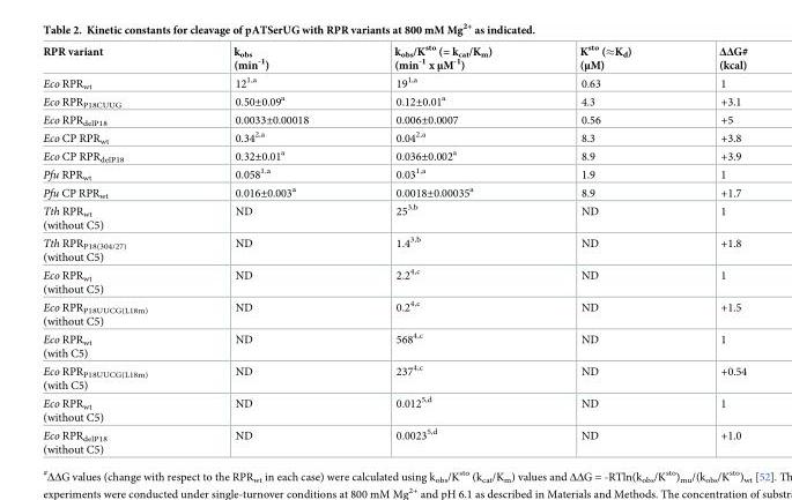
<table><thead><tr><td>RPR variant</td><td>k<sub>obs</sub> (min<sup>-1</sup>)</td><td>k<sub>obs</sub>/K<sup>sto</sup> (= k<sub>cat</sub>/K<sub>m</sub>) (min<sup>-1</sup> x μM<sup>-1</sup>)</td><td>K<sup>sto</sup> (≈K<sub>d</sub>) (μM)</td><td>ΔΔG# (kcal)</td></tr></thead><tbody><tr><td>Eco RPR<sub>wt</sub></td><td>12<sup>1,a</sup></td><td>19<sup>1,a</sup></td><td>0.63</td><td>1</td></tr><tr><td>Eco RPR<sub>P18CUUG</sub></td><td>0.50±0.09<sup>a</sup></td><td>0.12±0.01<sup>a</sup></td><td>4.3</td><td>+3.1</td></tr><tr><td>Eco RPR<sub>delP18</sub></td><td>0.0033±0.00018</td><td>0.006±0.0007</td><td>0.56</td><td>+5</td></tr><tr><td>Eco CP RPR<sub>wt</sub></td><td>0.34<sup>2,a</sup></td><td>0.04<sup>2,a</sup></td><td>8.3</td><td>+3.8</td></tr><tr><td>Eco CP RPR<sub>delP18</sub></td><td>0.32±0.01<sup>a</sup></td><td>0.036±0.002<sup>a</sup></td><td>8.9</td><td>+3.9</td></tr><tr><td>Pfu RPR<sub>wt</sub></td><td>0.058<sup>1,a</sup></td><td>0.03<sup>1,a</sup></td><td>1.9</td><td>1</td></tr><tr><td>Pfu CP RPR<sub>wt</sub></td><td>0.016±0.003<sup>a</sup></td><td>0.0018±0.00035<sup>a</sup></td><td>8.9</td><td>+1.7</td></tr><tr><td>Tth RPR<sub>wt</sub> (without C5)</td><td>ND</td><td>25<sup>3,b</sup></td><td>ND</td><td>1</td></tr><tr><td>Tth RPR<sub>P18(304/27)</sub> (without C5)</td><td>ND</td><td>1.4<sup>3,b</sup></td><td>ND</td><td>+1.8</td></tr><tr><td>Eco RPR<sub>wt</sub> (without C5)</td><td>ND</td><td>2.2<sup>4,c</sup></td><td>ND</td><td>1</td></tr><tr><td>Eco RPR<sub>P18UUCG(L18m)</sub> (without C5)</td><td>ND</td><td>0.2<sup>4,c</sup></td><td>ND</td><td>+1.5</td></tr><tr><td>Eco RPR<sub>wt</sub> (with C5)</td><td>ND</td><td>568<sup>4,c</sup></td><td>ND</td><td>1</td></tr><tr><td>Eco RPR<sub>P18UUCG(L18m)</sub> (with C5)</td><td>ND</td><td>237<sup>4,c</sup></td><td>ND</td><td>+0.54</td></tr><tr><td>Eco RPR<sub>wt</sub> (without C5)</td><td>ND</td><td>0.012<sup>5,d</sup></td><td>ND</td><td>1</td></tr><tr><td>Eco RPR<sub>delP18</sub> (without C5)</td><td>ND</td><td>0.0023<sup>5,d</sup></td><td>ND</td><td>+1.0</td></tr></tbody></table>